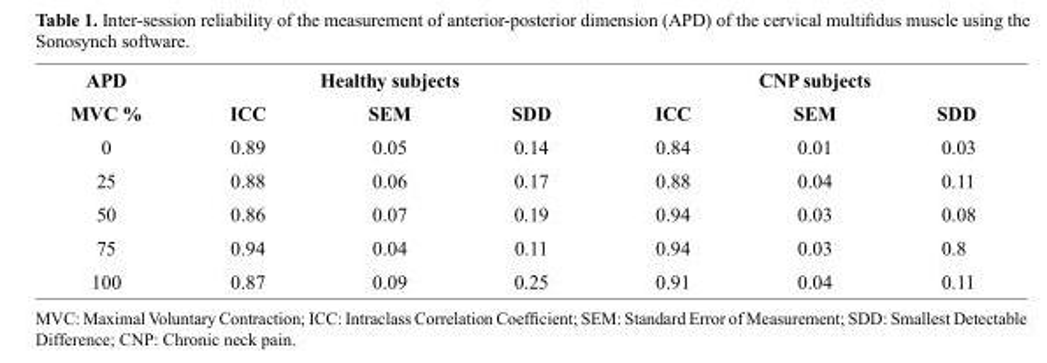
<table><thead><tr><td rowspan="2">APD MVC %</td><td rowspan="2">ICC</td><td rowspan="2">Healthy subjects SEM</td><td rowspan="2">SDD</td><td rowspan="2">ICC</td><td rowspan="2">CNP subjects SEM</td><td rowspan="2">SDD</td></tr><tr></tr></thead><tbody><tr><td>0</td><td>0.89</td><td>0.05</td><td>0.14</td><td>0.84</td><td>0.01</td><td>0.03</td></tr><tr><td>25</td><td>0.88</td><td>0.06</td><td>0.17</td><td>0.88</td><td>0.04</td><td>0.11</td></tr><tr><td>50</td><td>0.86</td><td>0.07</td><td>0.19</td><td>0.94</td><td>0.03</td><td>0.08</td></tr><tr><td>75</td><td>0.94</td><td>0.04</td><td>0.11</td><td>0.94</td><td>0.03</td><td>0.8</td></tr><tr><td>100</td><td>0.87</td><td>0.09</td><td>0.25</td><td>0.91</td><td>0.04</td><td>0.11</td></tr></tbody></table>